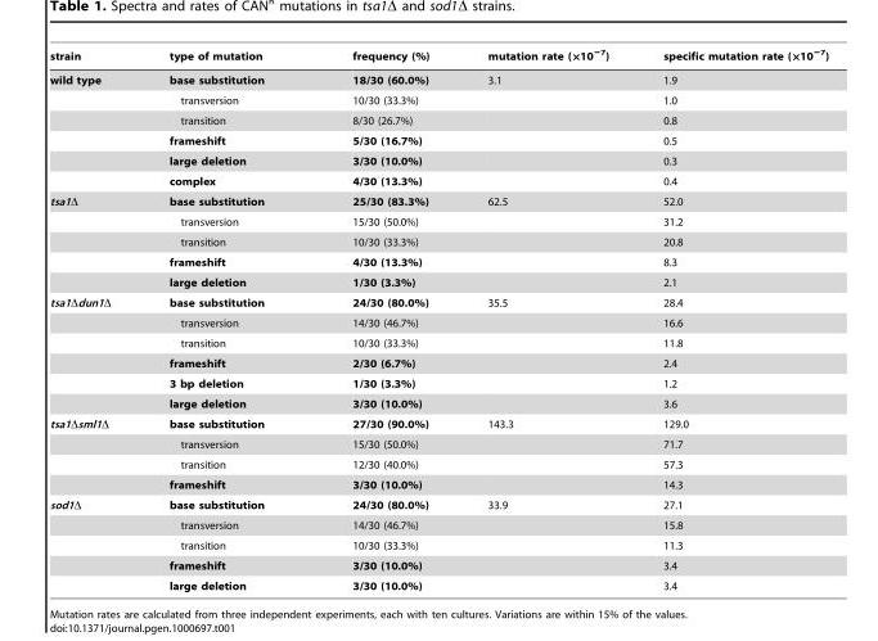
<table><thead><tr><td>strain</td><td>type of mutation</td><td>frequency (%)</td><td>mutation rate (×10<sup>−7</sup>)</td><td>specific mutation rate (×10<sup>−7</sup>)</td></tr></thead><tbody><tr><td rowspan="6">wild type</td><td>base substitution</td><td>18/30 (60.0%)</td><td>3.1</td><td>1.9</td></tr><tr><td>transversion</td><td>10/30 (33.3%)</td><td></td><td>1.0</td></tr><tr><td>transition</td><td>8/30 (26.7%)</td><td></td><td>0.8</td></tr><tr><td>frameshift</td><td>5/30 (16.7%)</td><td></td><td>0.5</td></tr><tr><td>large deletion</td><td>3/30 (10.0%)</td><td></td><td>0.3</td></tr><tr><td>complex</td><td>4/30 (13.3%)</td><td></td><td>0.4</td></tr><tr><td rowspan="5">tsa1Δ</td><td>base substitution</td><td>25/30 (83.3%)</td><td>62.5</td><td>52.0</td></tr><tr><td>transversion</td><td>15/30 (50.0%)</td><td></td><td>31.2</td></tr><tr><td>transition</td><td>10/30 (33.3%)</td><td></td><td>20.8</td></tr><tr><td>frameshift</td><td>4/30 (13.3%)</td><td></td><td>8.3</td></tr><tr><td>large deletion</td><td>1/30 (3.3%)</td><td></td><td>2.1</td></tr><tr><td rowspan="6">tsa1Δdun1Δ</td><td>base substitution</td><td>24/30 (80.0%)</td><td>35.5</td><td>28.4</td></tr><tr><td>transversion</td><td>14/30 (46.7%)</td><td></td><td>16.6</td></tr><tr><td>transition</td><td>10/30 (33.3%)</td><td></td><td>11.8</td></tr><tr><td>frameshift</td><td>2/30 (6.7%)</td><td></td><td>2.4</td></tr><tr><td>3 bp deletion</td><td>1/30 (3.3%)</td><td></td><td>1.2</td></tr><tr><td>large deletion</td><td>3/30 (10.0%)</td><td></td><td>3.6</td></tr><tr><td rowspan="4">tsa1Δsml1Δ</td><td>base substitution</td><td>27/30 (90.0%)</td><td>143.3</td><td>129.0</td></tr><tr><td>transversion</td><td>15/30 (50.0%)</td><td></td><td>71.7</td></tr><tr><td>transition</td><td>12/30 (40.0%)</td><td></td><td>57.3</td></tr><tr><td>frameshift</td><td>3/30 (10.0%)</td><td></td><td>14.3</td></tr><tr><td rowspan="5">sod1Δ</td><td>base substitution</td><td>24/30 (80.0%)</td><td>33.9</td><td>27.1</td></tr><tr><td>transversion</td><td>14/30 (46.7%)</td><td></td><td>15.8</td></tr><tr><td>transition</td><td>10/30 (33.3%)</td><td></td><td>11.3</td></tr><tr><td>frameshift</td><td>3/30 (10.0%)</td><td></td><td>3.4</td></tr><tr><td>large deletion</td><td>3/30 (10.0%)</td><td></td><td>3.4</td></tr></tbody></table>